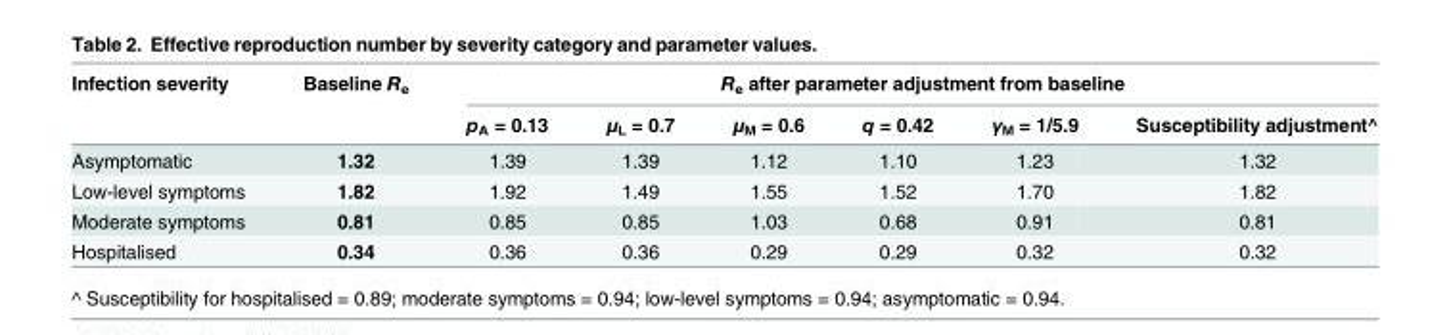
<table><thead><tr><td rowspan="2">Infection severity</td><td rowspan="2">Baseline R<sub>e</sub></td><td colspan="6">R<sub>e</sub> after parameter adjustment from baseline</td></tr><tr><td>p<sub>A</sub> = 0.13</td><td>μ<sub>L</sub> = 0.7</td><td>μ<sub>M</sub> = 0.6</td><td>q = 0.42</td><td>γ<sub>M</sub> = 1/5.9</td><td>Susceptibility adjustment^</td></tr></thead><tbody><tr><td>Asymptomatic</td><td>1.32</td><td>1.39</td><td>1.39</td><td>1.12</td><td>1.10</td><td>1.23</td><td>1.32</td></tr><tr><td>Low-level symptoms</td><td>1.82</td><td>1.92</td><td>1.49</td><td>1.55</td><td>1.52</td><td>1.70</td><td>1.82</td></tr><tr><td>Moderate symptoms</td><td>0.81</td><td>0.85</td><td>0.85</td><td>1.03</td><td>0.68</td><td>0.91</td><td>0.81</td></tr><tr><td>Hospitalised</td><td>0.34</td><td>0.36</td><td>0.36</td><td>0.29</td><td>0.29</td><td>0.32</td><td>0.32</td></tr></tbody></table>